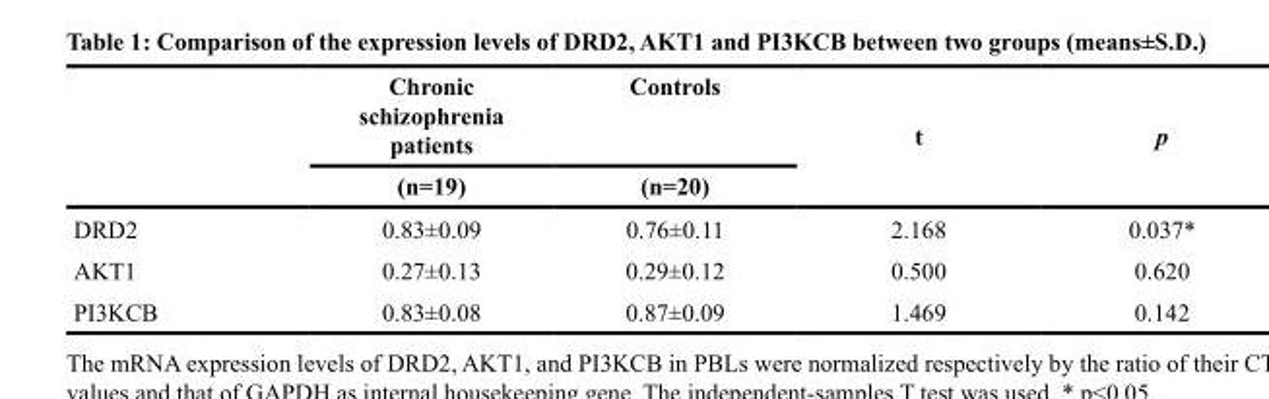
<table><thead><tr><td rowspan="2"></td><td rowspan="2">Chronic schizophrenia patients (n=19)</td><td rowspan="2">Controls (n=20)</td><td rowspan="2">t</td><td rowspan="2">p</td></tr><tr></tr></thead><tbody><tr><td>DRD2</td><td>0.83±0.09</td><td>0.76±0.11</td><td>2.168</td><td>0.037*</td></tr><tr><td>AKT1</td><td>0.27±0.13</td><td>0.29±0.12</td><td>0.500</td><td>0.620</td></tr><tr><td>PI3KCB</td><td>0.83±0.08</td><td>0.87±0.09</td><td>1.469</td><td>0.142</td></tr></tbody></table>